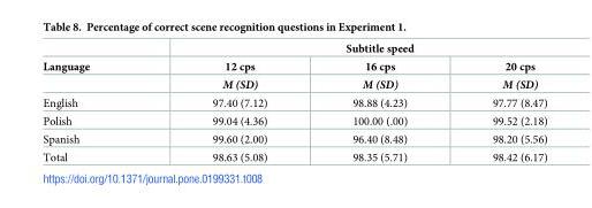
<table><thead><tr><td rowspan="3">Language</td><td colspan="3">Subtitle speed</td></tr><tr><td rowspan="2">12 cps M (SD)</td><td rowspan="2">16 cps M (SD)</td><td rowspan="2">20 cps M (SD)</td></tr><tr></tr></thead><tbody><tr><td>English</td><td>97.40 (7.12)</td><td>98.88 (4.23)</td><td>97.77 (8.47)</td></tr><tr><td>Polish</td><td>99.04 (4.36)</td><td>100.00 (.00)</td><td>99.52 (2.18)</td></tr><tr><td>Spanish</td><td>99.60 (2.00)</td><td>96.40 (8.48)</td><td>98.20 (5.56)</td></tr><tr><td>Total</td><td>98.63 (5.08)</td><td>98.35 (5.71)</td><td>98.42 (6.17)</td></tr></tbody></table>